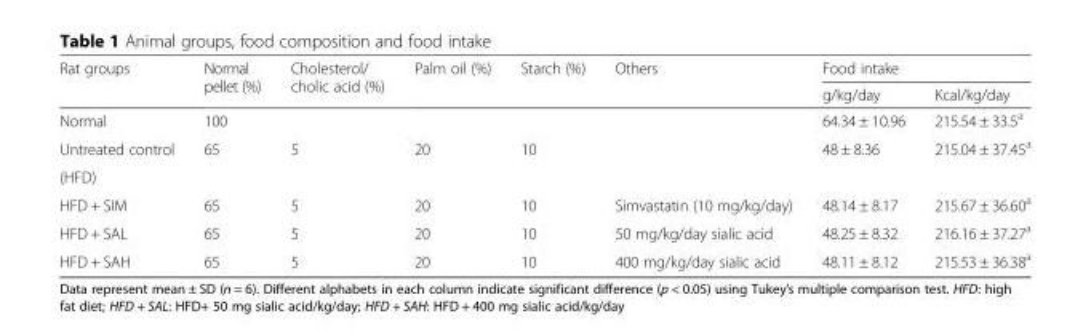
<table><thead><tr><td rowspan="2">Rat groups</td><td rowspan="2">Normal pellet (%)</td><td rowspan="2">Cholesterol/ cholic acid (%)</td><td rowspan="2">Palm oil (%)</td><td rowspan="2">Starch (%)</td><td rowspan="2">Others</td><td colspan="2">Food intake</td></tr><tr><td>g/kg/day</td><td>Kcal/kg/day</td></tr></thead><tbody><tr><td>Normal</td><td>100</td><td></td><td></td><td></td><td></td><td>64.34 ± 10.96</td><td>215.54 ± 33.5<sup>a</sup></td></tr><tr><td>Untreated control</td><td rowspan="2">65</td><td rowspan="2">5</td><td rowspan="2">20</td><td rowspan="2">10</td><td rowspan="2"></td><td rowspan="2">48 ± 8.36</td><td rowspan="2">215.04 ± 37.45<sup>a</sup></td></tr><tr><td>(HFD)</td></tr><tr><td>HFD + SIM</td><td>65</td><td>5</td><td>20</td><td>10</td><td>Simvastatin (10 mg/kg/day)</td><td>48.14 ± 8.17</td><td>215.67 ± 36.60<sup>a</sup></td></tr><tr><td>HFD + SAL</td><td>65</td><td>5</td><td>20</td><td>10</td><td>50 mg/kg/day sialic acid</td><td>48.25 ± 8.32</td><td>216.16 ± 37.27<sup>a</sup></td></tr><tr><td>HFD + SAH</td><td>65</td><td>5</td><td>20</td><td>10</td><td>400 mg/kg/day sialic acid</td><td>48.11 ± 8.12</td><td>215.53 ± 36.38<sup>a</sup></td></tr></tbody></table>